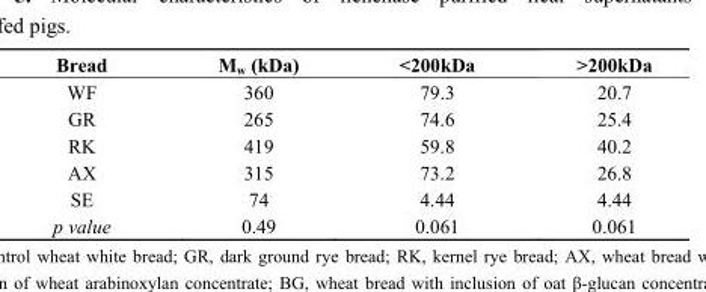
<table><thead><tr><td>Bread</td><td>M<sub>w</sub> (kDa)</td><td>&lt;200kDa</td><td>&gt;200kDa</td></tr></thead><tbody><tr><td>WF</td><td>360</td><td>79.3</td><td>20.7</td></tr><tr><td>GR</td><td>265</td><td>74.6</td><td>25.4</td></tr><tr><td>RK</td><td>419</td><td>59.8</td><td>40.2</td></tr><tr><td>AX</td><td>315</td><td>73.2</td><td>26.8</td></tr><tr><td>SE</td><td>74</td><td>4.44</td><td>4.44</td></tr><tr><td>p value</td><td>0.49</td><td>0.061</td><td>0.061</td></tr></tbody></table>